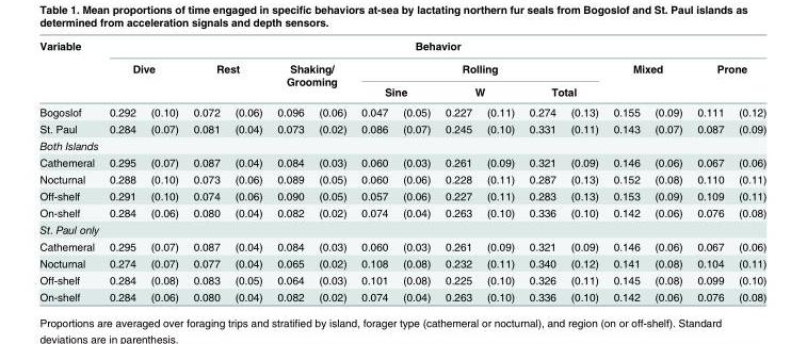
<table><thead><tr><td rowspan="4">Variable Bogoslof</td><td colspan="16">Behavior</td></tr><tr><td rowspan="2" colspan="2">Dive</td><td rowspan="2" colspan="2">Rest</td><td rowspan="2" colspan="2">Shaking/ Grooming</td><td colspan="6">Rolling</td><td colspan="2">Mixed</td><td colspan="2">Prone</td></tr><tr><td colspan="2">Sine</td><td colspan="2">W</td><td colspan="2">Total</td><td rowspan="2">0.155</td><td rowspan="2">(0.09)</td><td rowspan="2">0.111</td><td rowspan="2">(0.12)</td></tr><tr><td>0.292</td><td>(0.10)</td><td>0.072</td><td>(0.06)</td><td>0.096</td><td>(0.06)</td><td>0.047</td><td>(0.05)</td><td>0.227</td><td>(0.11)</td><td>0.274</td><td>(0.13)</td></tr></thead><tbody><tr><td>St. Paul</td><td>0.284</td><td>(0.07)</td><td>0.081</td><td>(0.04)</td><td>0.073</td><td>(0.02)</td><td>0.086</td><td>(0.07)</td><td>0.245</td><td>(0.10)</td><td>0.331</td><td>(0.11)</td><td>0.143</td><td>(0.07)</td><td>0.087</td><td>(0.09)</td></tr><tr><td colspan="17">Both Islands</td></tr><tr><td>Cathemeral</td><td>0.295</td><td>(0.07)</td><td>0.087</td><td>(0.04)</td><td>0.084</td><td>(0.03)</td><td>0.060</td><td>(0.03)</td><td>0.261</td><td>(0.09)</td><td>0.321</td><td>(0.09)</td><td>0.146</td><td>(0.06)</td><td>0.067</td><td>(0.06)</td></tr><tr><td>Nocturnal</td><td>0.288</td><td>(0.10)</td><td>0.073</td><td>(0.06)</td><td>0.089</td><td>(0.05)</td><td>0.060</td><td>(0.06)</td><td>0.228</td><td>(0.11)</td><td>0.287</td><td>(0.13)</td><td>0.152</td><td>(0.08)</td><td>0.110</td><td>(0.11)</td></tr><tr><td>Off-shelf</td><td>0.291</td><td>(0.10)</td><td>0.074</td><td>(0.06)</td><td>0.090</td><td>(0.05)</td><td>0.057</td><td>(0.06)</td><td>0.227</td><td>(0.11)</td><td>0.283</td><td>(0.13)</td><td>0.153</td><td>(0.09)</td><td>0.109</td><td>(0.11)</td></tr><tr><td>On-shelf</td><td>0.284</td><td>(0.06)</td><td>0.080</td><td>(0.04)</td><td>0.082</td><td>(0.02)</td><td>0.074</td><td>(0.04)</td><td>0.263</td><td>(0.10)</td><td>0.336</td><td>(0.10)</td><td>0.142</td><td>(0.06)</td><td>0.076</td><td>(0.08)</td></tr><tr><td colspan="17">St. Paul only</td></tr><tr><td>Cathemeral</td><td>0.295</td><td>(0.07)</td><td>0.087</td><td>(0.04)</td><td>0.084</td><td>(0.03)</td><td>0.060</td><td>(0.03)</td><td>0.261</td><td>(0.09)</td><td>0.321</td><td>(0.09)</td><td>0.146</td><td>(0.06)</td><td>0.067</td><td>(0.06)</td></tr><tr><td>Nocturnal</td><td>0.274</td><td>(0.07)</td><td>0.077</td><td>(0.04)</td><td>0.065</td><td>(0.02)</td><td>0.108</td><td>(0.08)</td><td>0.232</td><td>(0.11)</td><td>0.340</td><td>(0.12)</td><td>0.141</td><td>(0.08)</td><td>0.104</td><td>(0.11)</td></tr><tr><td>Off-shelf</td><td>0.284</td><td>(0.08)</td><td>0.083</td><td>(0.05)</td><td>0.064</td><td>(0.03)</td><td>0.101</td><td>(0.08)</td><td>0.225</td><td>(0.10)</td><td>0.326</td><td>(0.11)</td><td>0.145</td><td>(0.08)</td><td>0.099</td><td>(0.10)</td></tr><tr><td>On-shelf</td><td>0.284</td><td>(0.06)</td><td>0.080</td><td>(0.04)</td><td>0.082</td><td>(0.02)</td><td>0.074</td><td>(0.04)</td><td>0.263</td><td>(0.10)</td><td>0.336</td><td>(0.10)</td><td>0.142</td><td>(0.06)</td><td>0.076</td><td>(0.08)</td></tr></tbody></table>